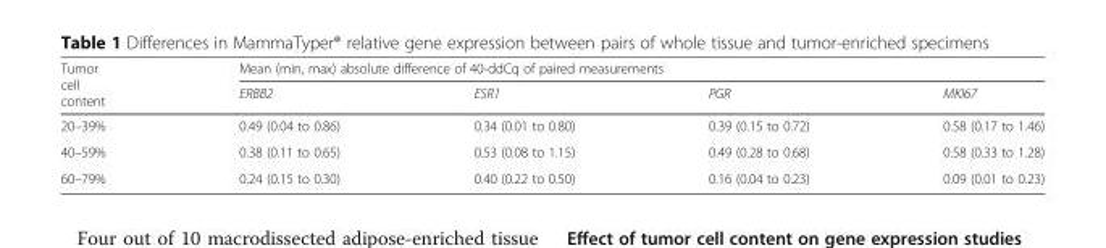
<table><thead><tr><td rowspan="2">Tumor cell content</td><td colspan="4">Mean (min, max) absolute difference of 40-ddCq of paired measurements</td></tr><tr><td>ERBB2</td><td>ESR1</td><td>PGR</td><td>MKI67</td></tr></thead><tbody><tr><td>20–39%</td><td>0.49 (0.04 to 0.86)</td><td>0.34 (0.01 to 0.80)</td><td>0.39 (0.15 to 0.72)</td><td>0.58 (0.17 to 1.46)</td></tr><tr><td>40–59%</td><td>0.38 (0.11 to 0.65)</td><td>0.53 (0.08 to 1.15)</td><td>0.49 (0.28 to 0.68)</td><td>0.58 (0.33 to 1.28)</td></tr><tr><td>60–79%</td><td>0.24 (0.15 to 0.30)</td><td>0.40 (0.22 to 0.50)</td><td>0.16 (0.04 to 0.23)</td><td>0.09 (0.01 to 0.23)</td></tr></tbody></table>